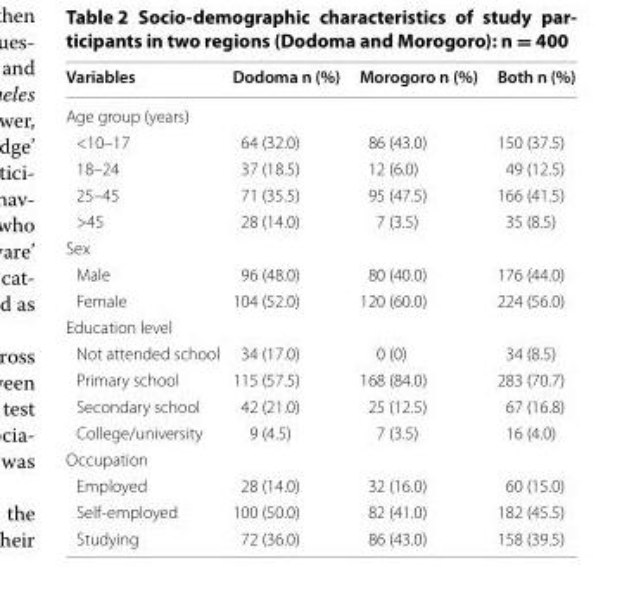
<table><thead><tr><td>Variables</td><td>Dodoma n (%)</td><td>Morogoro n (%)</td><td>Both n (%)</td></tr></thead><tbody><tr><td colspan="4">Age group (years)</td></tr><tr><td>&lt;10–17</td><td>64 (32.0)</td><td>86 (43.0)</td><td>150 (37.5)</td></tr><tr><td>18–24</td><td>37 (18.5)</td><td>12 (6.0)</td><td>49 (12.5)</td></tr><tr><td>25–45</td><td>71 (35.5)</td><td>95 (47.5)</td><td>166 (41.5)</td></tr><tr><td>&gt;45</td><td>28 (14.0)</td><td>7 (3.5)</td><td>35 (8.5)</td></tr><tr><td colspan="4">Sex</td></tr><tr><td>Male</td><td>96 (48.0)</td><td>80 (40.0)</td><td>176 (44.0)</td></tr><tr><td>Female</td><td>104 (52.0)</td><td>120 (60.0)</td><td>224 (56.0)</td></tr><tr><td colspan="4">Education level</td></tr><tr><td>Not attended school</td><td>34 (17.0)</td><td>0 (0)</td><td>34 (8.5)</td></tr><tr><td>Primary school</td><td>115 (57.5)</td><td>168 (84.0)</td><td>283 (70.7)</td></tr><tr><td>Secondary school</td><td>42 (21.0)</td><td>25 (12.5)</td><td>67 (16.8)</td></tr><tr><td>College/university</td><td>9 (4.5)</td><td>7 (3.5)</td><td>16 (4.0)</td></tr><tr><td colspan="4">Occupation</td></tr><tr><td>Employed</td><td>28 (14.0)</td><td>32 (16.0)</td><td>60 (15.0)</td></tr><tr><td>Self-employed</td><td>100 (50.0)</td><td>82 (41.0)</td><td>182 (45.5)</td></tr><tr><td>Studying</td><td>72 (36.0)</td><td>86 (43.0)</td><td>158 (39.5)</td></tr></tbody></table>